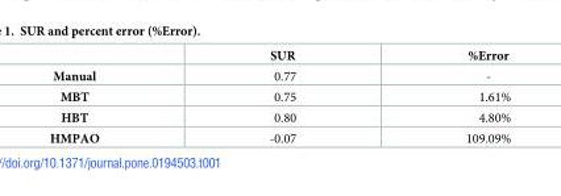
<table><thead><tr><td></td><td>SUR</td><td>%Error</td></tr></thead><tbody><tr><td>Manual</td><td>0.77</td><td>-</td></tr><tr><td>MBT</td><td>0.75</td><td>1.61%</td></tr><tr><td>HBT</td><td>0.80</td><td>4.80%</td></tr><tr><td>HMPAO</td><td>-0.07</td><td>109.09%</td></tr></tbody></table>